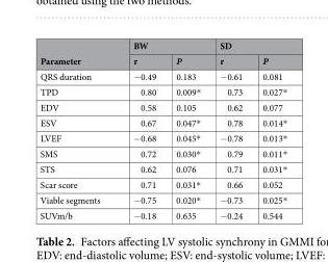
<table><thead><tr><td rowspan="2">Parameter</td><td colspan="2">BW</td><td colspan="2">SD</td></tr><tr><td>r</td><td>P</td><td>r</td><td>P</td></tr></thead><tbody><tr><td>QRS duration</td><td>−0.49</td><td>0.183</td><td>−0.61</td><td>0.081</td></tr><tr><td>TPD</td><td>0.80</td><td>0.009*</td><td>0.73</td><td>0.027*</td></tr><tr><td>EDV</td><td>0.58</td><td>0.105</td><td>0.62</td><td>0.077</td></tr><tr><td>ESV</td><td>0.67</td><td>0.047*</td><td>0.78</td><td>0.014*</td></tr><tr><td>LVEF</td><td>−0.68</td><td>0.045*</td><td>−0.78</td><td>0.013*</td></tr><tr><td>SMS</td><td>0.72</td><td>0.030*</td><td>0.79</td><td>0.011*</td></tr><tr><td>STS</td><td>0.62</td><td>0.076</td><td>0.71</td><td>0.031*</td></tr><tr><td>Scar score</td><td>0.71</td><td>0.031*</td><td>0.66</td><td>0.052</td></tr><tr><td>Viable segments</td><td>−0.75</td><td>0.020*</td><td>−0.73</td><td>0.025*</td></tr><tr><td>SUVm/b</td><td>−0.18</td><td>0.635</td><td>−0.24</td><td>0.544</td></tr></tbody></table>